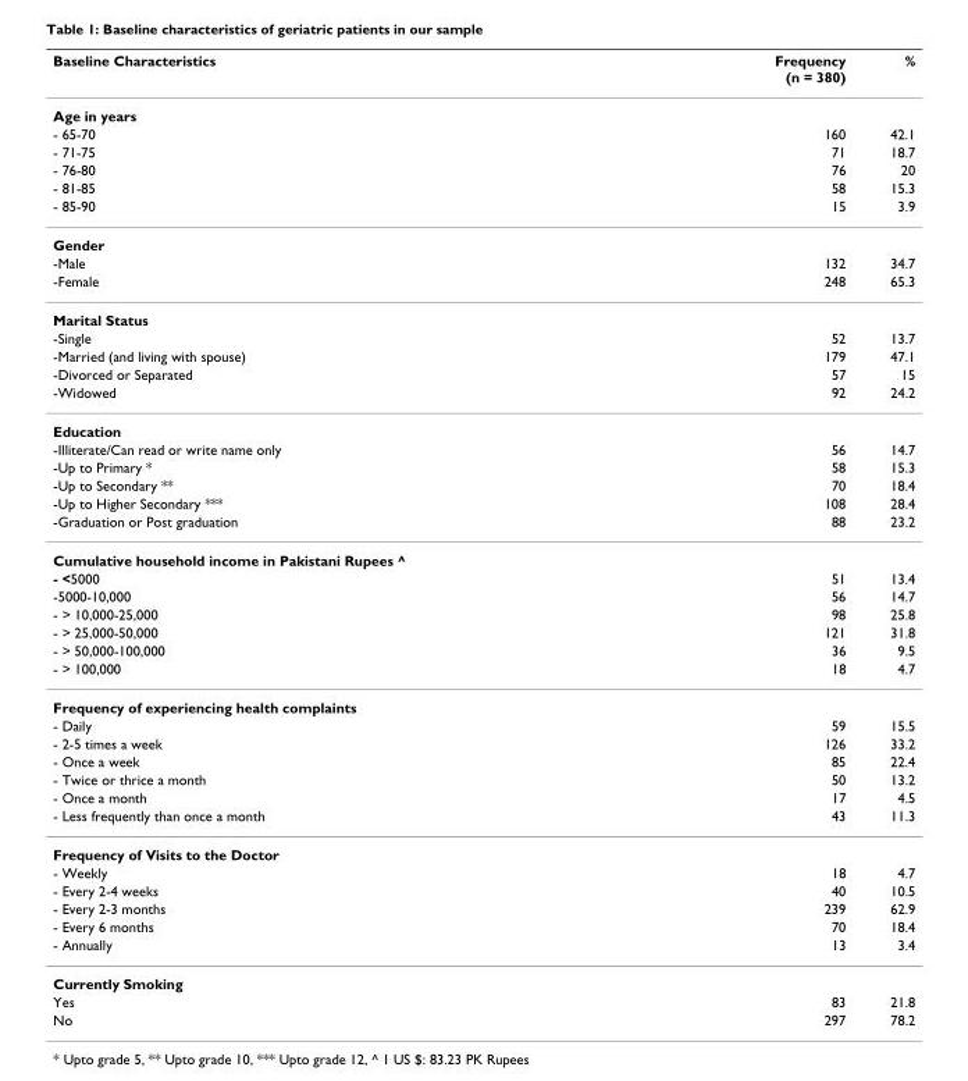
<table><thead><tr><td>Baseline Characteristics</td><td>Frequency (n = 380)</td><td>%</td></tr></thead><tbody><tr><td colspan="3">Age in years</td></tr><tr><td>- 65-70</td><td>160</td><td>42.1</td></tr><tr><td>- 71-75</td><td>71</td><td>18.7</td></tr><tr><td>- 76-80</td><td>76</td><td>20</td></tr><tr><td>- 81-85</td><td>58</td><td>15.3</td></tr><tr><td>- 85-90</td><td>15</td><td>3.9</td></tr><tr><td colspan="3">Gender</td></tr><tr><td>-Male</td><td>132</td><td>34.7</td></tr><tr><td>-Female</td><td>248</td><td>65.3</td></tr><tr><td colspan="3">Marital Status</td></tr><tr><td>-Single</td><td>52</td><td>13.7</td></tr><tr><td>-Married (and living with spouse)</td><td>179</td><td>47.1</td></tr><tr><td>-Divorced or Separated</td><td>57</td><td>15</td></tr><tr><td>-Widowed</td><td>92</td><td>24.2</td></tr><tr><td colspan="3">Education</td></tr><tr><td>-Illiterate/Can read or write name only</td><td>56</td><td>14.7</td></tr><tr><td>-Up to Primary *</td><td>58</td><td>15.3</td></tr><tr><td>-Up to Secondary **</td><td>70</td><td>18.4</td></tr><tr><td>-Up to Higher Secondary ***</td><td>108</td><td>28.4</td></tr><tr><td>-Graduation or Post graduation</td><td>88</td><td>23.2</td></tr><tr><td colspan="3">Cumulative household income in Pakistani Rupees ^</td></tr><tr><td>- &lt;5000</td><td>51</td><td>13.4</td></tr><tr><td>-5000-10,000</td><td>56</td><td>14.7</td></tr><tr><td>- &gt; 10,000-25,000</td><td>98</td><td>25.8</td></tr><tr><td>- &gt; 25,000-50,000</td><td>121</td><td>31.8</td></tr><tr><td>- &gt; 50,000-100,000</td><td>36</td><td>9.5</td></tr><tr><td>- &gt; 100,000</td><td>18</td><td>4.7</td></tr><tr><td colspan="3">Frequency of experiencing health complaints</td></tr><tr><td>- Daily</td><td>59</td><td>15.5</td></tr><tr><td>- 2-5 times a week</td><td>126</td><td>33.2</td></tr><tr><td>- Once a week</td><td>85</td><td>22.4</td></tr><tr><td>- Twice or thrice a month</td><td>50</td><td>13.2</td></tr><tr><td>- Once a month</td><td>17</td><td>4.5</td></tr><tr><td>- Less frequently than once a month</td><td>43</td><td>11.3</td></tr><tr><td colspan="3">Frequency of Visits to the Doctor</td></tr><tr><td>- Weekly</td><td>18</td><td>4.7</td></tr><tr><td>- Every 2-4 weeks</td><td>40</td><td>10.5</td></tr><tr><td>- Every 2-3 months</td><td>239</td><td>62.9</td></tr><tr><td>- Every 6 months</td><td>70</td><td>18.4</td></tr><tr><td>- Annually</td><td>13</td><td>3.4</td></tr><tr><td colspan="3">Currently Smoking</td></tr><tr><td>Yes</td><td>83</td><td>21.8</td></tr><tr><td>No</td><td>297</td><td>78.2</td></tr></tbody></table>